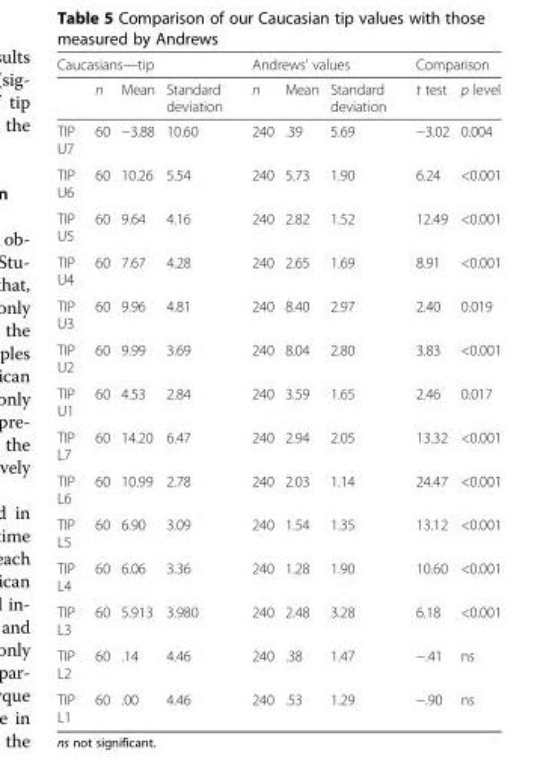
<table><thead><tr><td colspan="4">Caucasians—tip</td><td colspan="3">Andrews’ values</td><td colspan="2">Comparison</td></tr><tr><td></td><td>n</td><td>Mean</td><td>Standard deviation</td><td>n</td><td>Mean</td><td>Standard deviation</td><td>t test</td><td>p level</td></tr></thead><tbody><tr><td>TIP U7</td><td>60</td><td>−3.88</td><td>10.60</td><td>240</td><td>.39</td><td>5.69</td><td>−3.02</td><td>0.004</td></tr><tr><td>TIP U6</td><td>60</td><td>10.26</td><td>5.54</td><td>240</td><td>5.73</td><td>1.90</td><td>6.24</td><td>&lt;0.001</td></tr><tr><td>TIP U5</td><td>60</td><td>9.64</td><td>4.16</td><td>240</td><td>2.82</td><td>1.52</td><td>12.49</td><td>&lt;0.001</td></tr><tr><td>TIP U4</td><td>60</td><td>7.67</td><td>4.28</td><td>240</td><td>2.65</td><td>1.69</td><td>8.91</td><td>&lt;0.001</td></tr><tr><td>TIP U3</td><td>60</td><td>9.96</td><td>4.81</td><td>240</td><td>8.40</td><td>2.97</td><td>2.40</td><td>0.019</td></tr><tr><td>TIP U2</td><td>60</td><td>9.99</td><td>3.69</td><td>240</td><td>8.04</td><td>2.80</td><td>3.83</td><td>&lt;0.001</td></tr><tr><td>TIP U1</td><td>60</td><td>4.53</td><td>2.84</td><td>240</td><td>3.59</td><td>1.65</td><td>2.46</td><td>0.017</td></tr><tr><td>TIP L7</td><td>60</td><td>14.20</td><td>6.47</td><td>240</td><td>2.94</td><td>2.05</td><td>13.32</td><td>&lt;0.001</td></tr><tr><td>TIP L6</td><td>60</td><td>10.99</td><td>2.78</td><td>240</td><td>2.03</td><td>1.14</td><td>24.47</td><td>&lt;0.001</td></tr><tr><td>TIP L5</td><td>60</td><td>6.90</td><td>3.09</td><td>240</td><td>1.54</td><td>1.35</td><td>13.12</td><td>&lt;0.001</td></tr><tr><td>TIP L4</td><td>60</td><td>6.06</td><td>3.36</td><td>240</td><td>1.28</td><td>1.90</td><td>10.60</td><td>&lt;0.001</td></tr><tr><td>TIP L3</td><td>60</td><td>5.913</td><td>3.980</td><td>240</td><td>2.48</td><td>3.28</td><td>6.18</td><td>&lt;0.001</td></tr><tr><td>TIP L2</td><td>60</td><td>.14</td><td>4.46</td><td>240</td><td>.38</td><td>1.47</td><td>−.41</td><td>ns</td></tr><tr><td>TIP L1</td><td>60</td><td>.00</td><td>4.46</td><td>240</td><td>.53</td><td>1.29</td><td>−.90</td><td>ns</td></tr></tbody></table>